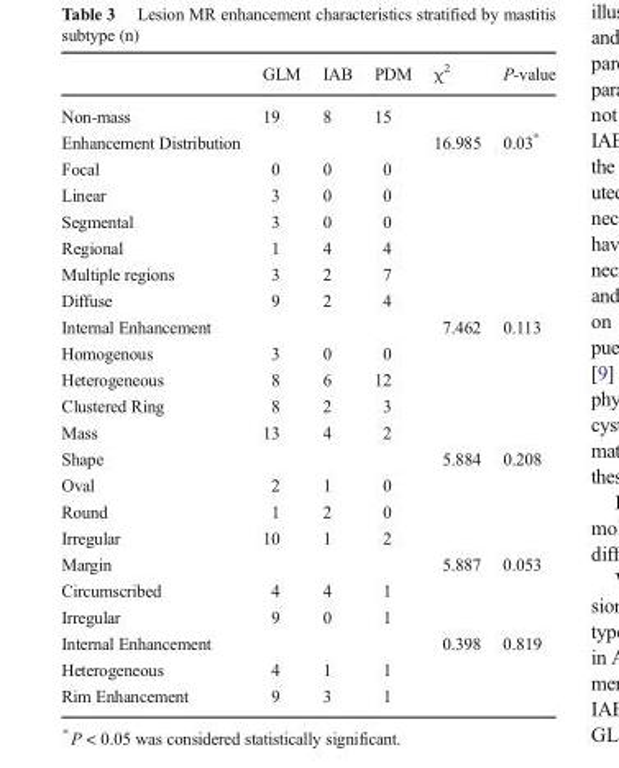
<table><thead><tr><td></td><td>GLM</td><td>IAB</td><td>PDM</td><td>χ<sup>2</sup></td><td>P-value</td></tr></thead><tbody><tr><td>Non-mass</td><td>19</td><td>8</td><td>15</td><td></td><td></td></tr><tr><td>Enhancement Distribution</td><td></td><td></td><td></td><td>16.985</td><td>0.03*</td></tr><tr><td>Focal</td><td>0</td><td>0</td><td>0</td><td></td><td></td></tr><tr><td>Linear</td><td>3</td><td>0</td><td>0</td><td></td><td></td></tr><tr><td>Segmental</td><td>3</td><td>0</td><td>0</td><td></td><td></td></tr><tr><td>Regional</td><td>1</td><td>4</td><td>4</td><td></td><td></td></tr><tr><td>Multiple regions</td><td>3</td><td>2</td><td>7</td><td></td><td></td></tr><tr><td>Diffuse</td><td>9</td><td>2</td><td>4</td><td></td><td></td></tr><tr><td>Internal Enhancement</td><td></td><td></td><td></td><td>7.462</td><td>0.113</td></tr><tr><td>Homogenous</td><td>3</td><td>0</td><td>0</td><td></td><td></td></tr><tr><td>Heterogeneous</td><td>8</td><td>6</td><td>12</td><td></td><td></td></tr><tr><td>Clustered Ring</td><td>8</td><td>2</td><td>3</td><td></td><td></td></tr><tr><td>Mass</td><td>13</td><td>4</td><td>2</td><td></td><td></td></tr><tr><td>Shape</td><td></td><td></td><td></td><td>5.884</td><td>0.208</td></tr><tr><td>Oval</td><td>2</td><td>1</td><td>0</td><td></td><td></td></tr><tr><td>Round</td><td>1</td><td>2</td><td>0</td><td></td><td></td></tr><tr><td>Irregular</td><td>10</td><td>1</td><td>2</td><td></td><td></td></tr><tr><td>Margin</td><td></td><td></td><td></td><td>5.887</td><td>0.053</td></tr><tr><td>Circumscribed</td><td>4</td><td>4</td><td>1</td><td></td><td></td></tr><tr><td>Irregular</td><td>9</td><td>0</td><td>1</td><td></td><td></td></tr><tr><td>Internal Enhancement</td><td></td><td></td><td></td><td>0.398</td><td>0.819</td></tr><tr><td>Heterogeneous</td><td>4</td><td>1</td><td>1</td><td></td><td></td></tr><tr><td>Rim Enhancement</td><td>9</td><td>3</td><td>1</td><td></td><td></td></tr></tbody></table>